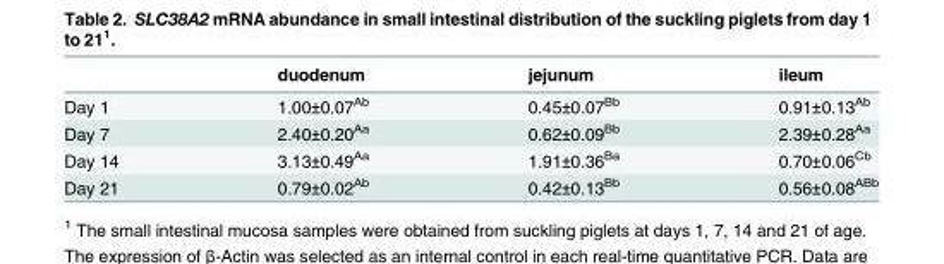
<table><thead><tr><td></td><td>duodenum</td><td>jejunum</td><td>ileum</td></tr></thead><tbody><tr><td>Day 1</td><td>1.00±0.07<sup>Ab</sup></td><td>0.45±0.07<sup>Bb</sup></td><td>0.91±0.13<sup>Ab</sup></td></tr><tr><td>Day 7</td><td>2.40±0.20<sup>Aa</sup></td><td>0.62±0.09<sup>Bb</sup></td><td>2.39±0.28<sup>Aa</sup></td></tr><tr><td>Day 14</td><td>3.13±0.49<sup>Aa</sup></td><td>1.91±0.36<sup>Ba</sup></td><td>0.70±0.06<sup>Cb</sup></td></tr><tr><td>Day 21</td><td>0.79±0.02<sup>Ab</sup></td><td>0.42±0.13<sup>Bb</sup></td><td>0.56±0.08<sup>ABb</sup></td></tr></tbody></table>